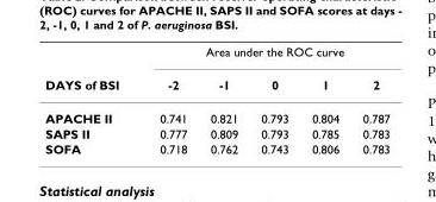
<table><thead><tr><td rowspan="2">DAYS of BSI</td><td colspan="5">Area under the ROC curve</td></tr><tr><td>-2</td><td>-1</td><td>0</td><td>1</td><td>2</td></tr></thead><tbody><tr><td>APACHE II</td><td>0.741</td><td>0.821</td><td>0.793</td><td>0.804</td><td>0.787</td></tr><tr><td>SAPS II</td><td>0.777</td><td>0.809</td><td>0.793</td><td>0.785</td><td>0.783</td></tr><tr><td>SOFA</td><td>0.718</td><td>0.762</td><td>0.743</td><td>0.806</td><td>0.783</td></tr></tbody></table>